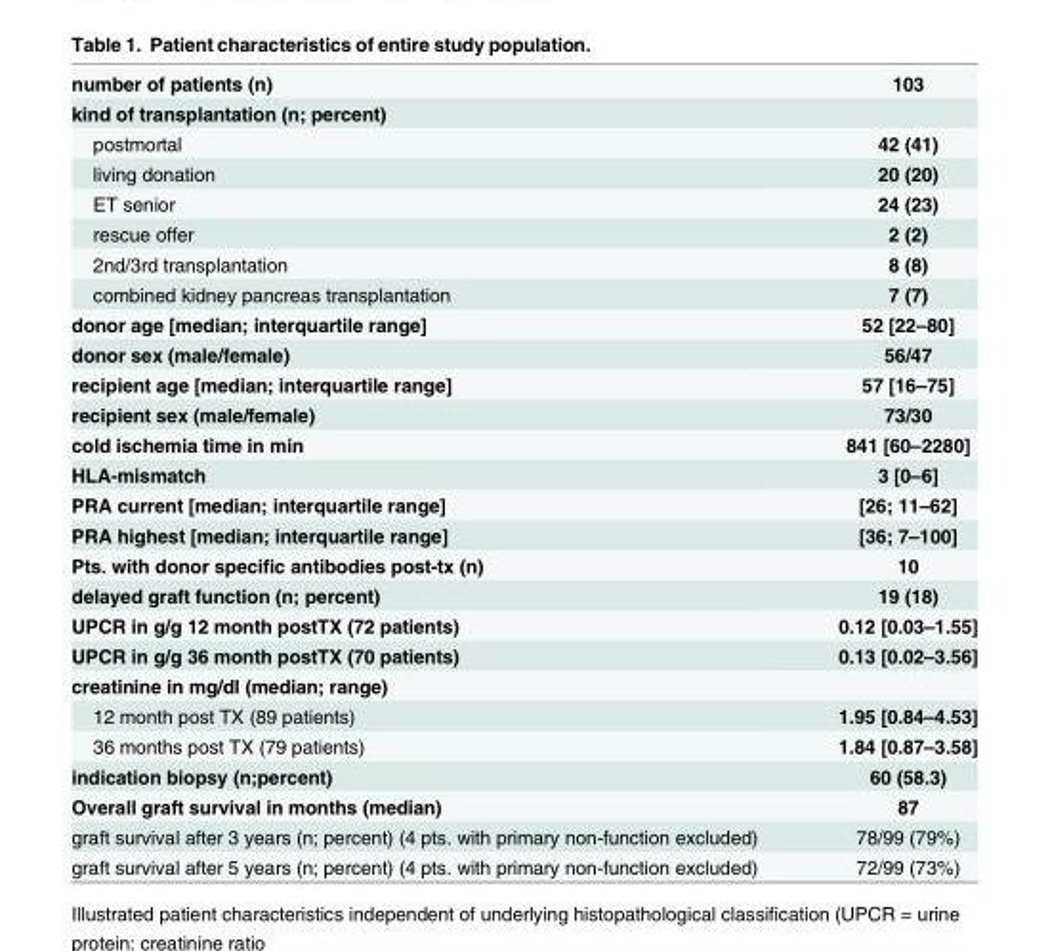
<table><tbody><tr><td>number of patients (n)</td><td>103</td></tr><tr><td colspan="2">kind of transplantation (n; percent)</td></tr><tr><td>postmortal</td><td>42 (41)</td></tr><tr><td>living donation</td><td>20 (20)</td></tr><tr><td>ET senior</td><td>24 (23)</td></tr><tr><td>rescue offer</td><td>2 (2)</td></tr><tr><td>2nd/3rd transplantation</td><td>8 (8)</td></tr><tr><td>combined kidney pancreas transplantation</td><td>7 (7)</td></tr><tr><td>donor age [median; interquartile range]</td><td>52 [22–80]</td></tr><tr><td>donor sex (male/female)</td><td>56/47</td></tr><tr><td>recipient age [median; interquartile range]</td><td>57 [16–75]</td></tr><tr><td>recipient sex (male/female)</td><td>73/30</td></tr><tr><td>cold ischemia time in min</td><td>841 [60–2280]</td></tr><tr><td>HLA-mismatch</td><td>3 [0–6]</td></tr><tr><td>PRA current [median; interquartile range]</td><td>[26; 11–62]</td></tr><tr><td>PRA highest [median; interquartile range]</td><td>[36; 7–100]</td></tr><tr><td>Pts. with donor specific antibodies post-tx (n)</td><td>10</td></tr><tr><td>delayed graft function (n; percent)</td><td>19 (18)</td></tr><tr><td>UPCR in g/g 12 month postTX (72 patients)</td><td>0.12 [0.03–1.55]</td></tr><tr><td>UPCR in g/g 36 month postTX (70 patients)</td><td>0.13 [0.02–3.56]</td></tr><tr><td colspan="2">creatinine in mg/dl (median; range)</td></tr><tr><td>12 month post TX (89 patients)</td><td>1.95 [0.84–4.53]</td></tr><tr><td>36 months post TX (79 patients)</td><td>1.84 [0.87–3.58]</td></tr><tr><td>indication biopsy (n;percent)</td><td>60 (58.3)</td></tr><tr><td>Overall graft survival in months (median)</td><td>87</td></tr><tr><td>graft survival after 3 years (n; percent) (4 pts. with primary non-function excluded)</td><td>78/99 (79%)</td></tr><tr><td>graft survival after 5 years (n; percent) (4 pts. with primary non-function excluded)</td><td>72/99 (73%)</td></tr></tbody></table>